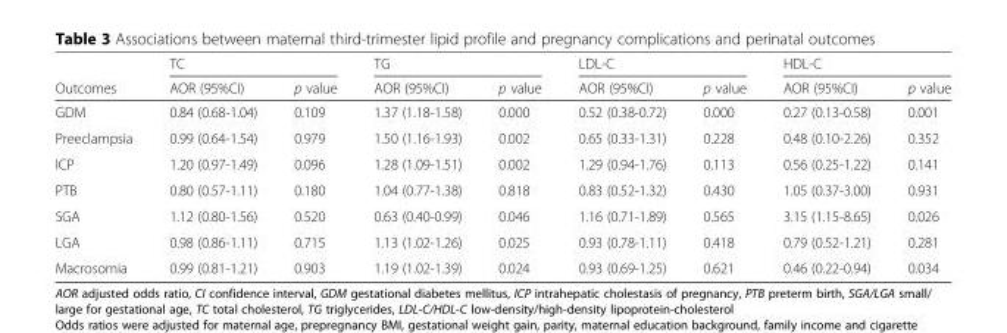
<table><thead><tr><td rowspan="2">Outcomes</td><td colspan="2">TC</td><td colspan="2">TG</td><td colspan="2">LDL-C</td><td colspan="2">HDL-C</td></tr><tr><td>AOR (95%CI)</td><td>p value</td><td>AOR (95%CI)</td><td>p value</td><td>AOR (95%CI)</td><td>p value</td><td>AOR (95%CI)</td><td>p value</td></tr></thead><tbody><tr><td>GDM</td><td>0.84 (0.68-1.04)</td><td>0.109</td><td>1.37 (1.18-1.58)</td><td>0.000</td><td>0.52 (0.38-0.72)</td><td>0.000</td><td>0.27 (0.13-0.58)</td><td>0.001</td></tr><tr><td>Preeclampsia</td><td>0.99 (0.64-1.54)</td><td>0.979</td><td>1.50 (1.16-1.93)</td><td>0.002</td><td>0.65 (0.33-1.31)</td><td>0.228</td><td>0.48 (0.10-2.26)</td><td>0.352</td></tr><tr><td>ICP</td><td>1.20 (0.97-1.49)</td><td>0.096</td><td>1.28 (1.09-1.51)</td><td>0.002</td><td>1.29 (0.94-1.76)</td><td>0.113</td><td>0.56 (0.25-1.22)</td><td>0.141</td></tr><tr><td>PTB</td><td>0.80 (0.57-1.11)</td><td>0.180</td><td>1.04 (0.77-1.38)</td><td>0.818</td><td>0.83 (0.52-1.32)</td><td>0.430</td><td>1.05 (0.37-3.00)</td><td>0.931</td></tr><tr><td>SGA</td><td>1.12 (0.80-1.56)</td><td>0.520</td><td>0.63 (0.40-0.99)</td><td>0.046</td><td>1.16 (0.71-1.89)</td><td>0.565</td><td>3.15 (1.15-8.65)</td><td>0.026</td></tr><tr><td>LGA</td><td>0.98 (0.86-1.11)</td><td>0.715</td><td>1.13 (1.02-1.26)</td><td>0.025</td><td>0.93 (0.78-1.11)</td><td>0.418</td><td>0.79 (0.52-1.21)</td><td>0.281</td></tr><tr><td>Macrosomia</td><td>0.99 (0.81-1.21)</td><td>0.903</td><td>1.19 (1.02-1.39)</td><td>0.024</td><td>0.93 (0.69-1.25)</td><td>0.621</td><td>0.46 (0.22-0.94)</td><td>0.034</td></tr></tbody></table>